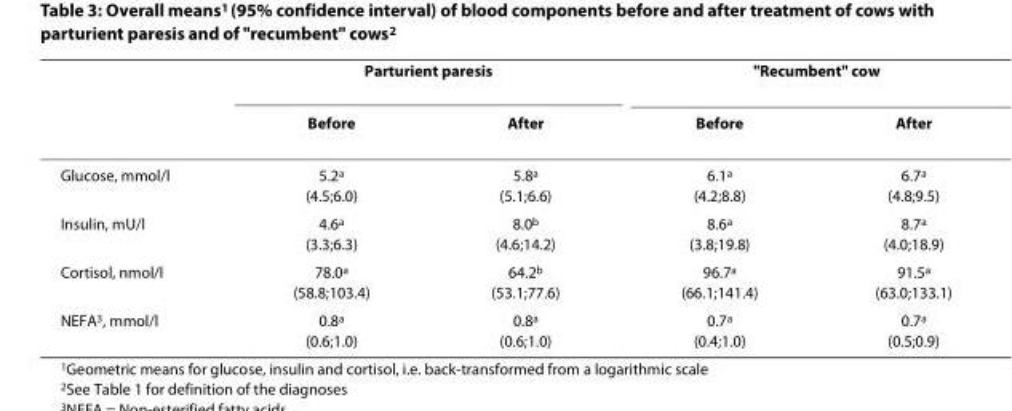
<table><thead><tr><td rowspan="2"></td><td colspan="2">Parturient paresis</td><td colspan="2">&quot;Recumbent&quot; cow</td></tr><tr><td>Before</td><td>After</td><td>Before</td><td>After</td></tr></thead><tbody><tr><td>Glucose, mmol/l</td><td>5.2<sup>a</sup> (4.5;6.0)</td><td>5.8<sup>a</sup> (5.1;6.6)</td><td>6.1<sup>a</sup> (4.2;8.8)</td><td>6.7<sup>a</sup> (4.8;9.5)</td></tr><tr><td>Insulin, mU/l</td><td>4.6<sup>a</sup> (3.3;6.3)</td><td>8.0<sup>b</sup> (4.6;14.2)</td><td>8.6<sup>a</sup> (3.8;19.8)</td><td>8.7<sup>a</sup> (4.0;18.9)</td></tr><tr><td>Cortisol, nmol/l</td><td>78.0<sup>a</sup> (58.8;103.4)</td><td>64.2<sup>b</sup> (53.1;77.6)</td><td>96.7<sup>a</sup> (66.1;141.4)</td><td>91.5<sup>a</sup> (63.0;133.1)</td></tr><tr><td>NEFA<sup>3</sup>, mmol/l</td><td>0.8<sup>a</sup> (0.6;1.0)</td><td>0.8<sup>a</sup> (0.6;1.0)</td><td>0.7<sup>a</sup> (0.4;1.0)</td><td>0.7<sup>a</sup> (0.5;0.9)</td></tr></tbody></table>